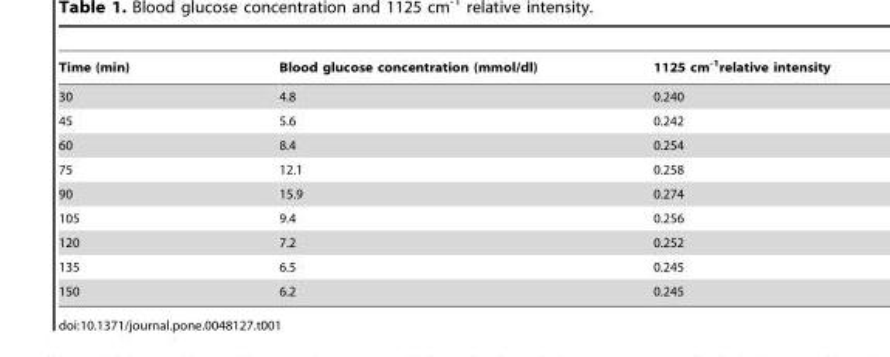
<table><thead><tr><td>Time (min)</td><td>Blood glucose concentration (mmol/dl)</td><td>1125 cm<sup>-1</sup>relative intensity</td></tr></thead><tbody><tr><td>30</td><td>4.8</td><td>0.240</td></tr><tr><td>45</td><td>5.6</td><td>0.242</td></tr><tr><td>60</td><td>8.4</td><td>0.254</td></tr><tr><td>75</td><td>12.1</td><td>0.258</td></tr><tr><td>90</td><td>15.9</td><td>0.274</td></tr><tr><td>105</td><td>9.4</td><td>0.256</td></tr><tr><td>120</td><td>7.2</td><td>0.252</td></tr><tr><td>135</td><td>6.5</td><td>0.245</td></tr><tr><td>150</td><td>6.2</td><td>0.245</td></tr></tbody></table>